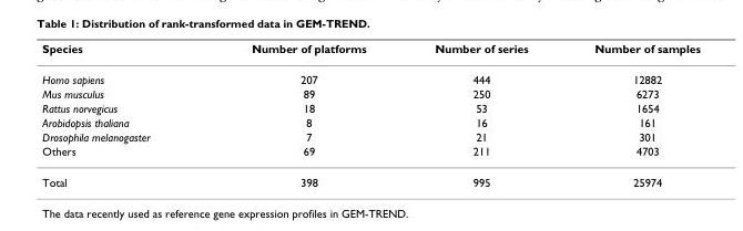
<table><thead><tr><td>Species</td><td>Number of platforms</td><td>Number of series</td><td>Number of samples</td></tr></thead><tbody><tr><td>Homo sapiens</td><td>207</td><td>444</td><td>12882</td></tr><tr><td>Mus musculus</td><td>89</td><td>250</td><td>6273</td></tr><tr><td>Rattus norvegicus</td><td>18</td><td>53</td><td>1654</td></tr><tr><td>Arobidopsis thaliana</td><td>8</td><td>16</td><td>161</td></tr><tr><td>Drosophila melanogaster</td><td>7</td><td>21</td><td>301</td></tr><tr><td>Others</td><td>69</td><td>211</td><td>4703</td></tr><tr><td>Total</td><td>398</td><td>995</td><td>25974</td></tr></tbody></table>